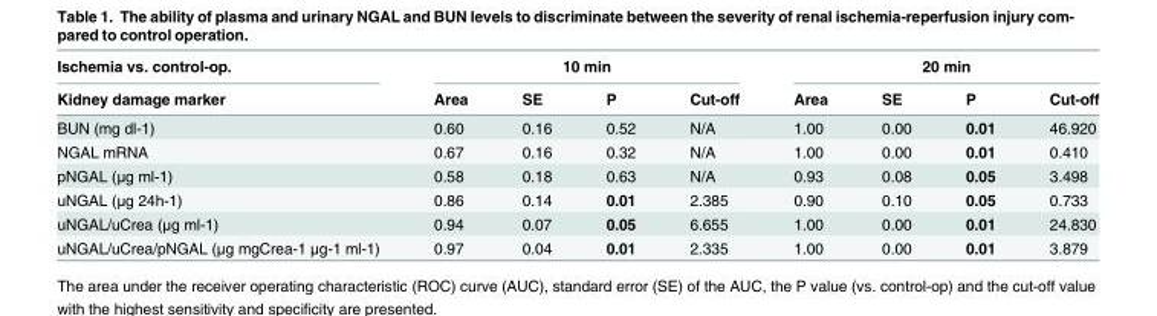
<table><thead><tr><td rowspan="2">Ischemia vs. control-op. Kidney damage marker</td><td colspan="4">10 min</td><td colspan="4">20 min</td></tr><tr><td>Area</td><td>SE</td><td>P</td><td>Cut-off</td><td>Area</td><td>SE</td><td>P</td><td>Cut-off</td></tr></thead><tbody><tr><td>BUN (mg dl-1)</td><td>0.60</td><td>0.16</td><td>0.52</td><td>N/A</td><td>1.00</td><td>0.00</td><td>0.01</td><td>46.920</td></tr><tr><td>NGAL mRNA</td><td>0.67</td><td>0.16</td><td>0.32</td><td>N/A</td><td>1.00</td><td>0.00</td><td>0.01</td><td>0.410</td></tr><tr><td>pNGAL (μg ml-1)</td><td>0.58</td><td>0.18</td><td>0.63</td><td>N/A</td><td>0.93</td><td>0.08</td><td>0.05</td><td>3.498</td></tr><tr><td>uNGAL (μg 24h-1)</td><td>0.86</td><td>0.14</td><td>0.01</td><td>2.385</td><td>0.90</td><td>0.10</td><td>0.05</td><td>0.733</td></tr><tr><td>uNGAL/uCrea (μg ml-1)</td><td>0.94</td><td>0.07</td><td>0.05</td><td>6.655</td><td>1.00</td><td>0.00</td><td>0.01</td><td>24.830</td></tr><tr><td>uNGAL/uCrea/pNGAL (μg mgCrea-1 μg-1 ml-1)</td><td>0.97</td><td>0.04</td><td>0.01</td><td>2.335</td><td>1.00</td><td>0.00</td><td>0.01</td><td>3.879</td></tr></tbody></table>